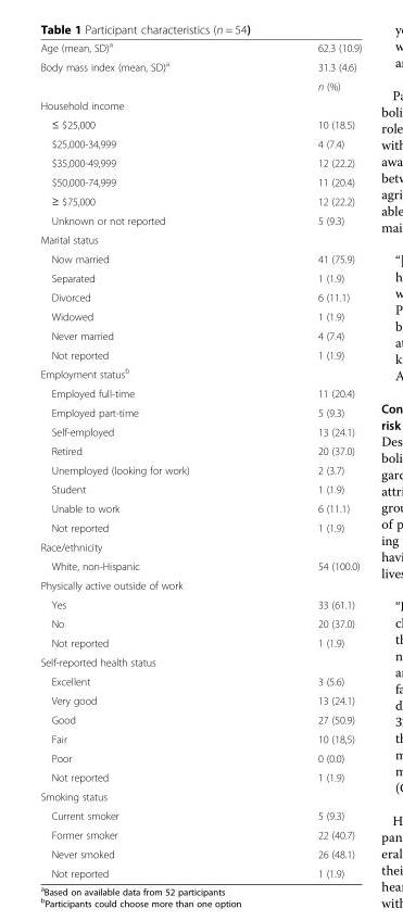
<table><tbody><tr><td>Age (mean, SD)<sup>a</sup></td><td>62.3 (10.9)</td></tr><tr><td rowspan="2">Body mass index (mean, SD)<sup>a</sup></td><td>31.3 (4.6)</td></tr><tr><td>n (%)</td></tr><tr><td colspan="2">Household income</td></tr><tr><td>≤ $25,000</td><td>10 (18.5)</td></tr><tr><td>$25,000-34,999</td><td>4 (7.4)</td></tr><tr><td>$35,000-49,999</td><td>12 (22.2)</td></tr><tr><td>$50,000-74,999</td><td>11 (20.4)</td></tr><tr><td>≥ $75,000</td><td>12 (22.2)</td></tr><tr><td>Unknown or not reported</td><td>5 (9.3)</td></tr><tr><td colspan="2">Marital status</td></tr><tr><td>Now married</td><td>41 (75.9)</td></tr><tr><td>Separated</td><td>1 (1.9)</td></tr><tr><td>Divorced</td><td>6 (11.1)</td></tr><tr><td>Widowed</td><td>1 (1.9)</td></tr><tr><td>Never married</td><td>4 (7.4)</td></tr><tr><td>Not reported</td><td>1 (1.9)</td></tr><tr><td colspan="2">Employment status<sup>b</sup></td></tr><tr><td>Employed full-time</td><td>11 (20.4)</td></tr><tr><td>Employed part-time</td><td>5 (9.3)</td></tr><tr><td>Self-employed</td><td>13 (24.1)</td></tr><tr><td>Retired</td><td>20 (37.0)</td></tr><tr><td>Unemployed (looking for work)</td><td>2 (3.7)</td></tr><tr><td>Student</td><td>1 (1.9)</td></tr><tr><td>Unable to work</td><td>6 (11.1)</td></tr><tr><td>Not reported</td><td>1 (1.9)</td></tr><tr><td colspan="2">Race/ethnicity</td></tr><tr><td>White, non-Hispanic</td><td>54 (100.0)</td></tr><tr><td colspan="2">Physically active outside of work</td></tr><tr><td>Yes</td><td>33 (61.1)</td></tr><tr><td>No</td><td>20 (37.0)</td></tr><tr><td>Not reported</td><td>1 (1.9)</td></tr><tr><td colspan="2">Self-reported health status</td></tr><tr><td>Excellent</td><td>3 (5.6)</td></tr><tr><td>Very good</td><td>13 (24.1)</td></tr><tr><td>Good</td><td>27 (50.9)</td></tr><tr><td>Fair</td><td>10 (18,5)</td></tr><tr><td>Poor</td><td>0 (0.0)</td></tr><tr><td>Not reported</td><td>1 (1.9)</td></tr><tr><td colspan="2">Smoking status</td></tr><tr><td>Current smoker</td><td>5 (9.3)</td></tr><tr><td>Former smoker</td><td>22 (40.7)</td></tr><tr><td>Never smoked</td><td>26 (48.1)</td></tr><tr><td>Not reported</td><td>1 (1.9)</td></tr></tbody></table>